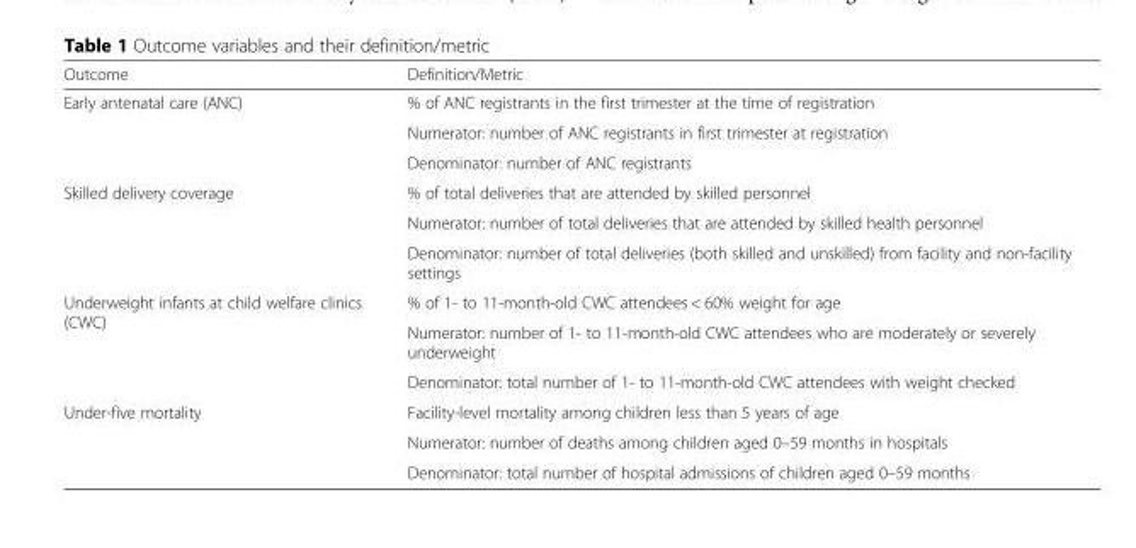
<table><thead><tr><td>Outcome</td><td>Definition/Metric</td></tr></thead><tbody><tr><td rowspan="3">Early antenatal care (ANC)</td><td>% of ANC registrants in the first trimester at the time of registration</td></tr><tr><td>Numerator: number of ANC registrants in first trimester at registration</td></tr><tr><td>Denominator: number of ANC registrants</td></tr><tr><td rowspan="3">Skilled delivery coverage</td><td>% of total deliveries that are attended by skilled personnel</td></tr><tr><td>Numerator: number of total deliveries that are attended by skilled health personnel</td></tr><tr><td>Denominator: number of total deliveries (both skilled and unskilled) from facility and non-facility settings</td></tr><tr><td rowspan="3">Underweight infants at child welfare clinics (CWC)</td><td>% of 1- to 11-month-old CWC attendees &lt; 60% weight for age</td></tr><tr><td>Numerator: number of 1- to 11-month-old CWC attendees who are moderately or severely underweight</td></tr><tr><td>Denominator: total number of 1- to 11-month-old CWC attendees with weight checked</td></tr><tr><td rowspan="3">Under-five mortality</td><td>Facility-level mortality among children less than 5 years of age</td></tr><tr><td>Numerator: number of deaths among children aged 0–59 months in hospitals</td></tr><tr><td>Denominator: total number of hospital admissions of children aged 0–59 months</td></tr></tbody></table>